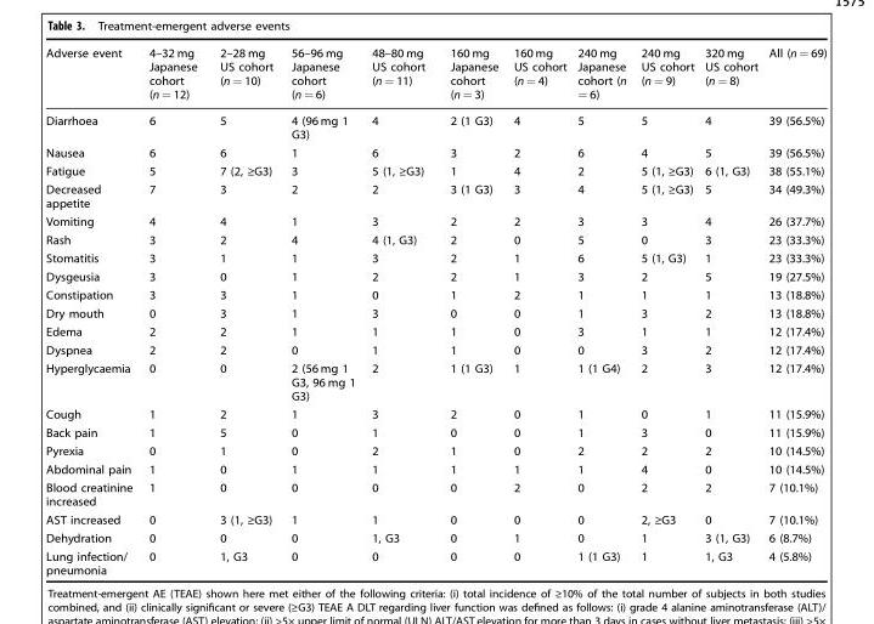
<table><thead><tr><td>Adverse event</td><td>4–32 mg Japanese cohort (n = 12)</td><td>2–28 mg US cohort (n = 10)</td><td>56–96 mg Japanese cohort (n = 6)</td><td>48–80 mg US cohort (n = 11)</td><td>160 mg Japanese cohort (n = 3)</td><td>160 mg US cohort (n = 4)</td><td>240 mg Japanese cohort (n = 6)</td><td>240 mg US cohort (n = 9)</td><td>320 mg US cohort (n = 8)</td><td>All (n = 69)</td></tr></thead><tbody><tr><td>Diarrhoea</td><td>6</td><td>5</td><td>4 (96 mg 1 G3)</td><td>4</td><td>2 (1 G3)</td><td>4</td><td>5</td><td>5</td><td>4</td><td>39 (56.5%)</td></tr><tr><td>Nausea</td><td>6</td><td>6</td><td>1</td><td>6</td><td>3</td><td>2</td><td>6</td><td>4</td><td>5</td><td>39 (56.5%)</td></tr><tr><td>Fatigue</td><td>5</td><td>7 (2, ≥G3)</td><td>3</td><td>5 (1, ≥G3)</td><td>1</td><td>4</td><td>2</td><td>5 (1, ≥G3)</td><td>6 (1, G3)</td><td>38 (55.1%)</td></tr><tr><td>Decreased appetite</td><td>7</td><td>3</td><td>2</td><td>2</td><td>3 (1 G3)</td><td>3</td><td>4</td><td>5 (1, ≥G3)</td><td>5</td><td>34 (49.3%)</td></tr><tr><td>Vomiting</td><td>4</td><td>4</td><td>1</td><td>3</td><td>2</td><td>2</td><td>3</td><td>3</td><td>4</td><td>26 (37.7%)</td></tr><tr><td>Rash</td><td>3</td><td>2</td><td>4</td><td>4 (1, G3)</td><td>2</td><td>0</td><td>5</td><td>0</td><td>3</td><td>23 (33.3%)</td></tr><tr><td>Stomatitis</td><td>3</td><td>1</td><td>1</td><td>3</td><td>2</td><td>1</td><td>6</td><td>5 (1, G3)</td><td>1</td><td>23 (33.3%)</td></tr><tr><td>Dysgeusia</td><td>3</td><td>0</td><td>1</td><td>2</td><td>2</td><td>1</td><td>3</td><td>2</td><td>5</td><td>19 (27.5%)</td></tr><tr><td>Constipation</td><td>3</td><td>3</td><td>1</td><td>0</td><td>1</td><td>2</td><td>1</td><td>1</td><td>1</td><td>13 (18.8%)</td></tr><tr><td>Dry mouth</td><td>0</td><td>3</td><td>1</td><td>3</td><td>0</td><td>0</td><td>1</td><td>3</td><td>2</td><td>13 (18.8%)</td></tr><tr><td>Edema</td><td>2</td><td>2</td><td>1</td><td>1</td><td>1</td><td>0</td><td>3</td><td>1</td><td>1</td><td>12 (17.4%)</td></tr><tr><td>Dyspnea</td><td>2</td><td>2</td><td>0</td><td>1</td><td>1</td><td>0</td><td>0</td><td>3</td><td>2</td><td>12 (17.4%)</td></tr><tr><td>Hyperglycaemia</td><td>0</td><td>0</td><td>2 (56 mg 1 G3, 96 mg 1 G3)</td><td>2</td><td>1 (1 G3)</td><td>1</td><td>1 (1 G4)</td><td>2</td><td>3</td><td>12 (17.4%)</td></tr><tr><td>Cough</td><td>1</td><td>2</td><td>1</td><td>3</td><td>2</td><td>0</td><td>1</td><td>0</td><td>1</td><td>11 (15.9%)</td></tr><tr><td>Back pain</td><td>1</td><td>5</td><td>0</td><td>1</td><td>0</td><td>0</td><td>1</td><td>3</td><td>0</td><td>11 (15.9%)</td></tr><tr><td>Pyrexia</td><td>0</td><td>1</td><td>0</td><td>2</td><td>1</td><td>0</td><td>2</td><td>2</td><td>2</td><td>10 (14.5%)</td></tr><tr><td>Abdominal pain</td><td>1</td><td>0</td><td>1</td><td>1</td><td>1</td><td>1</td><td>1</td><td>4</td><td>0</td><td>10 (14.5%)</td></tr><tr><td>Blood creatinine increased</td><td>1</td><td>0</td><td>0</td><td>0</td><td>0</td><td>2</td><td>0</td><td>2</td><td>2</td><td>7 (10.1%)</td></tr><tr><td>AST increased</td><td>0</td><td>3 (1, ≥G3)</td><td>1</td><td>1</td><td>0</td><td>0</td><td>0</td><td>2, ≥G3</td><td>0</td><td>7 (10.1%)</td></tr><tr><td>Dehydration</td><td>0</td><td>0</td><td>0</td><td>1, G3</td><td>0</td><td>1</td><td>0</td><td>1</td><td>3 (1, G3)</td><td>6 (8.7%)</td></tr><tr><td>Lung infection/ pneumonia</td><td>0</td><td>1, G3</td><td>0</td><td>0</td><td>0</td><td>0</td><td>1 (1 G3)</td><td>1</td><td>1, G3</td><td>4 (5.8%)</td></tr></tbody></table>